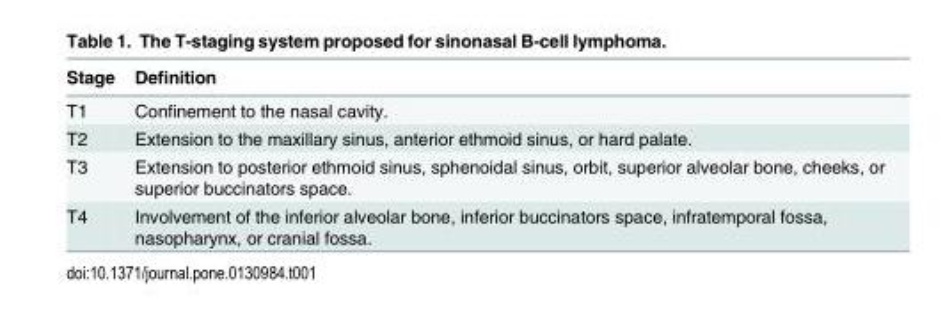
<table><thead><tr><td>Stage</td><td>Definition</td></tr></thead><tbody><tr><td>T1</td><td>Confinement to the nasal cavity.</td></tr><tr><td>T2</td><td>Extension to the maxillary sinus, anterior ethmoid sinus, or hard palate.</td></tr><tr><td>T3</td><td>Extension to posterior ethmoid sinus, sphenoidal sinus, orbit, superior alveolar bone, cheeks, or superior buccinators space.</td></tr><tr><td>T4</td><td>Involvement of the inferior alveolar bone, inferior buccinators space, infratemporal fossa, nasopharynx, or cranial fossa.</td></tr></tbody></table>